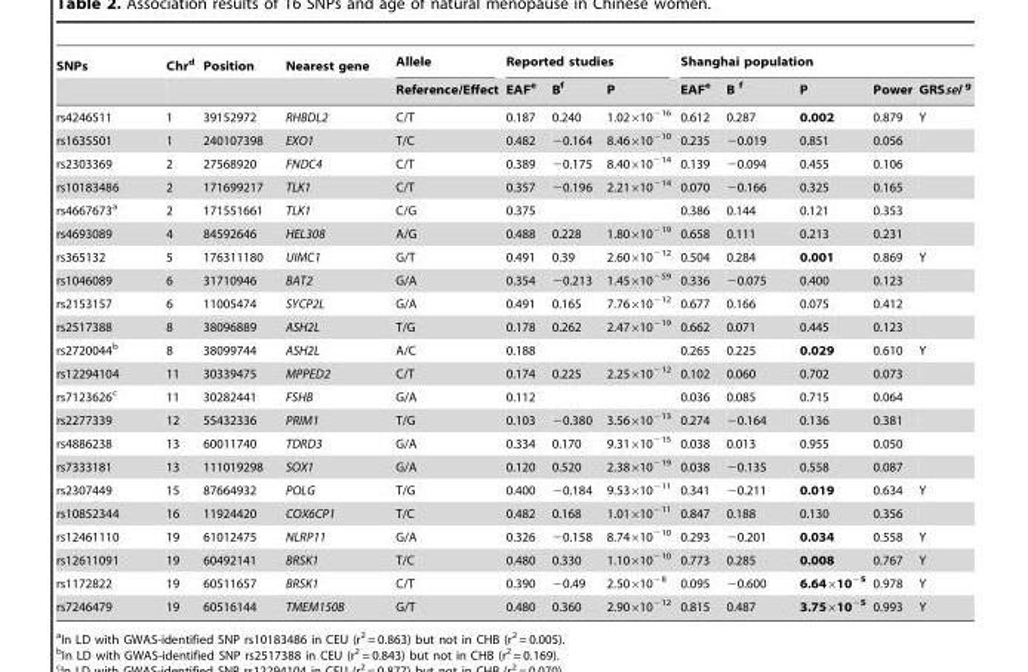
<table><thead><tr><td rowspan="2">SNPs</td><td rowspan="2">Chr<sup>d</sup></td><td rowspan="2">Position</td><td rowspan="2">Nearest gene</td><td rowspan="2">Allele Reference/Effect</td><td colspan="3">Reported studies</td><td colspan="5">Shanghai population</td></tr><tr><td>EAF<sup>e</sup></td><td>B<sup>f</sup></td><td>P</td><td>EAF<sup>e</sup></td><td>B f</td><td>P</td><td>Power</td><td>GRSsel g</td></tr></thead><tbody><tr><td>rs4246511</td><td>1</td><td>39152972</td><td>RHBDL2</td><td>C/T</td><td>0.187</td><td>0.240</td><td>1.02×10<sup>−16</sup></td><td>0.612</td><td>0.287</td><td>0.002</td><td>0.879</td><td>Y</td></tr><tr><td>rs1635501</td><td>1</td><td>240107398</td><td>EXO1</td><td>T/C</td><td>0.482</td><td>−0.164</td><td>8.46×10<sup>−10</sup></td><td>0.235</td><td>−0.019</td><td>0.851</td><td>0.056</td><td></td></tr><tr><td>rs2303369</td><td>2</td><td>27568920</td><td>FNDC4</td><td>C/T</td><td>0.389</td><td>−0.175</td><td>8.40×10<sup>−14</sup></td><td>0.139</td><td>−0.094</td><td>0.455</td><td>0.106</td><td></td></tr><tr><td>rs10183486</td><td>2</td><td>171699217</td><td>TLK1</td><td>C/T</td><td>0.357</td><td>−0.196</td><td>2.21×10<sup>−14</sup></td><td>0.070</td><td>−0.166</td><td>0.325</td><td>0.165</td><td></td></tr><tr><td>rs4667673<sup>a</sup></td><td>2</td><td>171551661</td><td>TLK1</td><td>C/G</td><td>0.375</td><td></td><td></td><td>0.386</td><td>0.144</td><td>0.121</td><td>0.353</td><td></td></tr><tr><td>rs4693089</td><td>4</td><td>84592646</td><td>HEL308</td><td>A/G</td><td>0.488</td><td>0.228</td><td>1.80×10<sup>−19</sup></td><td>0.658</td><td>0.111</td><td>0.213</td><td>0.231</td><td></td></tr><tr><td>rs365132</td><td>5</td><td>176311180</td><td>UIMC1</td><td>G/T</td><td>0.491</td><td>0.39</td><td>2.60×10<sup>−12</sup></td><td>0.504</td><td>0.284</td><td>0.001</td><td>0.869</td><td>Y</td></tr><tr><td>rs1046089</td><td>6</td><td>31710946</td><td>BAT2</td><td>G/A</td><td>0.354</td><td>−0.213</td><td>1.45×10<sup>−59</sup></td><td>0.336</td><td>−0.075</td><td>0.400</td><td>0.123</td><td></td></tr><tr><td>rs2153157</td><td>6</td><td>11005474</td><td>SYCP2L</td><td>G/A</td><td>0.491</td><td>0.165</td><td>7.76×10<sup>−12</sup></td><td>0.677</td><td>0.166</td><td>0.075</td><td>0.412</td><td></td></tr><tr><td>rs2517388</td><td>8</td><td>38096889</td><td>ASH2L</td><td>T/G</td><td>0.178</td><td>0.262</td><td>2.47×10<sup>−19</sup></td><td>0.662</td><td>0.071</td><td>0.445</td><td>0.123</td><td></td></tr><tr><td>rs2720044<sup>b</sup></td><td>8</td><td>38099744</td><td>ASH2L</td><td>A/C</td><td>0.188</td><td></td><td></td><td>0.265</td><td>0.225</td><td>0.029</td><td>0.610</td><td>Y</td></tr><tr><td>rs12294104</td><td>11</td><td>30339475</td><td>MPPED2</td><td>C/T</td><td>0.174</td><td>0.225</td><td>2.25×10<sup>−12</sup></td><td>0.102</td><td>0.060</td><td>0.702</td><td>0.073</td><td></td></tr><tr><td>rs7123626<sup>c</sup></td><td>11</td><td>30282441</td><td>FSHB</td><td>G/A</td><td>0.112</td><td></td><td></td><td>0.036</td><td>0.085</td><td>0.715</td><td>0.064</td><td></td></tr><tr><td>rs2277339</td><td>12</td><td>55432336</td><td>PRIM1</td><td>T/G</td><td>0.103</td><td>−0.380</td><td>3.56×10<sup>−13</sup></td><td>0.274</td><td>−0.164</td><td>0.136</td><td>0.381</td><td></td></tr><tr><td>rs4886238</td><td>13</td><td>60011740</td><td>TDRD3</td><td>G/A</td><td>0.334</td><td>0.170</td><td>9.31×10<sup>−15</sup></td><td>0.038</td><td>0.013</td><td>0.955</td><td>0.050</td><td></td></tr><tr><td>rs7333181</td><td>13</td><td>111019298</td><td>SOX1</td><td>G/A</td><td>0.120</td><td>0.520</td><td>2.38×10<sup>−19</sup></td><td>0.038</td><td>−0.135</td><td>0.558</td><td>0.087</td><td></td></tr><tr><td>rs2307449</td><td>15</td><td>87664932</td><td>POLG</td><td>T/G</td><td>0.400</td><td>−0.184</td><td>9.53×10<sup>−11</sup></td><td>0.341</td><td>−0.211</td><td>0.019</td><td>0.634</td><td>Y</td></tr><tr><td>rs10852344</td><td>16</td><td>11924420</td><td>COX6CP1</td><td>T/C</td><td>0.482</td><td>0.168</td><td>1.01×10<sup>−11</sup></td><td>0.847</td><td>0.188</td><td>0.130</td><td>0.356</td><td></td></tr><tr><td>rs12461110</td><td>19</td><td>61012475</td><td>NLRP11</td><td>G/A</td><td>0.326</td><td>−0.158</td><td>8.74×10<sup>−10</sup></td><td>0.293</td><td>−0.201</td><td>0.034</td><td>0.558</td><td>Y</td></tr><tr><td>rs12611091</td><td>19</td><td>60492141</td><td>BRSK1</td><td>T/C</td><td>0.480</td><td>0.330</td><td>1.10×10<sup>−10</sup></td><td>0.773</td><td>0.285</td><td>0.008</td><td>0.767</td><td>Y</td></tr><tr><td>rs1172822</td><td>19</td><td>60511657</td><td>BRSK1</td><td>C/T</td><td>0.390</td><td>−0.49</td><td>2.50×10<sup>−8</sup></td><td>0.095</td><td>−0.600</td><td>6.64×10<sup>−5</sup></td><td>0.978</td><td>Y</td></tr><tr><td>rs7246479</td><td>19</td><td>60516144</td><td>TMEM150B</td><td>G/T</td><td>0.480</td><td>0.360</td><td>2.90×10<sup>−12</sup></td><td>0.815</td><td>0.487</td><td>3.75×10<sup>−5</sup></td><td>0.993</td><td>Y</td></tr></tbody></table>